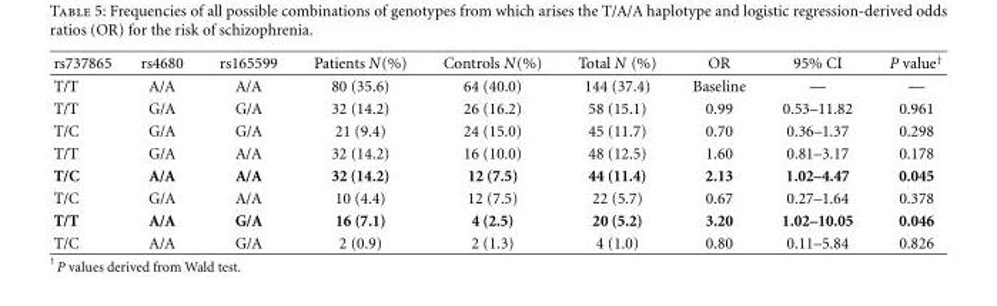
<table><thead><tr><td>rs737865</td><td>rs4680</td><td>rs165599</td><td>Patients N(%)</td><td>Controls N(%)</td><td>Total N (%)</td><td>OR</td><td>95% CI</td><td>P value<sup>†</sup></td></tr></thead><tbody><tr><td>T/T</td><td>A/A</td><td>A/A</td><td>80 (35.6)</td><td>64 (40.0)</td><td>144 (37.4)</td><td>Baseline</td><td>—</td><td>—</td></tr><tr><td>T/T</td><td>G/A</td><td>G/A</td><td>32 (14.2)</td><td>26 (16.2)</td><td>58 (15.1)</td><td>0.99</td><td>0.53–11.82</td><td>0.961</td></tr><tr><td>T/C</td><td>G/A</td><td>G/A</td><td>21 (9.4)</td><td>24 (15.0)</td><td>45 (11.7)</td><td>0.70</td><td>0.36–1.37</td><td>0.298</td></tr><tr><td>T/T</td><td>G/A</td><td>A/A</td><td>32 (14.2)</td><td>16 (10.0)</td><td>48 (12.5)</td><td>1.60</td><td>0.81–3.17</td><td>0.178</td></tr><tr><td>T/C</td><td>A/A</td><td>A/A</td><td>32 (14.2)</td><td>12 (7.5)</td><td>44 (11.4)</td><td>2.13</td><td>1.02–4.47</td><td>0.045</td></tr><tr><td>T/C</td><td>G/A</td><td>A/A</td><td>10 (4.4)</td><td>12 (7.5)</td><td>22 (5.7)</td><td>0.67</td><td>0.27–1.64</td><td>0.378</td></tr><tr><td>T/T</td><td>A/A</td><td>G/A</td><td>16 (7.1)</td><td>4 (2.5)</td><td>20 (5.2)</td><td>3.20</td><td>1.02–10.05</td><td>0.046</td></tr><tr><td>T/C</td><td>A/A</td><td>G/A</td><td>2 (0.9)</td><td>2 (1.3)</td><td>4 (1.0)</td><td>0.80</td><td>0.11–5.84</td><td>0.826</td></tr></tbody></table>